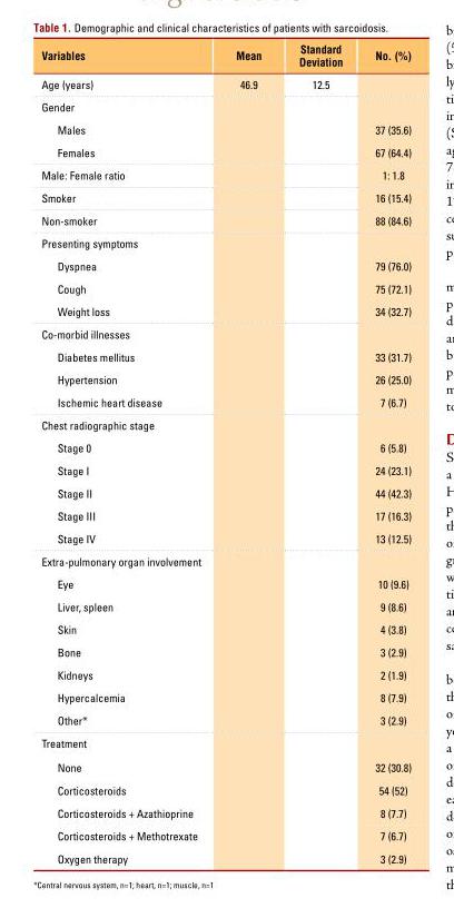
<table><thead><tr><td>Variables</td><td>Mean</td><td>Standard Deviation</td><td>No. (%)</td></tr></thead><tbody><tr><td>Age (years)</td><td>46.9</td><td>12.5</td><td></td></tr><tr><td colspan="4">Gender</td></tr><tr><td>Males</td><td></td><td></td><td>37 (35.6)</td></tr><tr><td>Females</td><td></td><td></td><td>67 (64.4)</td></tr><tr><td>Male: Female ratio</td><td></td><td></td><td>1: 1.8</td></tr><tr><td>Smoker</td><td></td><td></td><td>16 (15.4)</td></tr><tr><td>Non-smoker</td><td></td><td></td><td>88 (84.6)</td></tr><tr><td colspan="4">Presenting symptoms</td></tr><tr><td>Dyspnea</td><td></td><td></td><td>79 (76.0)</td></tr><tr><td>Cough</td><td></td><td></td><td>75 (72.1)</td></tr><tr><td>Weight loss</td><td></td><td></td><td>34 (32.7)</td></tr><tr><td colspan="4">Co-morbid illnesses</td></tr><tr><td>Diabetes mellitus</td><td></td><td></td><td>33 (31.7)</td></tr><tr><td>Hypertension</td><td></td><td></td><td>26 (25.0)</td></tr><tr><td>Ischemic heart disease</td><td></td><td></td><td>7 (6.7)</td></tr><tr><td colspan="4">Chest radiographic stage</td></tr><tr><td>Stage 0</td><td></td><td></td><td>6 (5.8)</td></tr><tr><td>Stage I</td><td></td><td></td><td>24 (23.1)</td></tr><tr><td>Stage II</td><td></td><td></td><td>44 (42.3)</td></tr><tr><td>Stage III</td><td></td><td></td><td>17 (16.3)</td></tr><tr><td>Stage IV</td><td></td><td></td><td>13 (12.5)</td></tr><tr><td colspan="4">Extra-pulmonary organ involvement</td></tr><tr><td>Eye</td><td></td><td></td><td>10 (9.6)</td></tr><tr><td>Liver, spleen</td><td></td><td></td><td>9 (8.6)</td></tr><tr><td>Skin</td><td></td><td></td><td>4 (3.8)</td></tr><tr><td>Bone</td><td></td><td></td><td>3 (2.9)</td></tr><tr><td>Kidneys</td><td></td><td></td><td>2 (1.9)</td></tr><tr><td>Hypercalcemia</td><td></td><td></td><td>8 (7.9)</td></tr><tr><td>Other*</td><td></td><td></td><td>3 (2.9)</td></tr><tr><td colspan="4">Treatment</td></tr><tr><td>None</td><td></td><td></td><td>32 (30.8)</td></tr><tr><td>Corticosteroids</td><td></td><td></td><td>54 (52)</td></tr><tr><td>Corticosteroids + Azathioprine</td><td></td><td></td><td>8 (7.7)</td></tr><tr><td>Corticosteroids + Methotrexate</td><td></td><td></td><td>7 (6.7)</td></tr><tr><td>Oxygen therapy</td><td></td><td></td><td>3 (2.9)</td></tr></tbody></table>